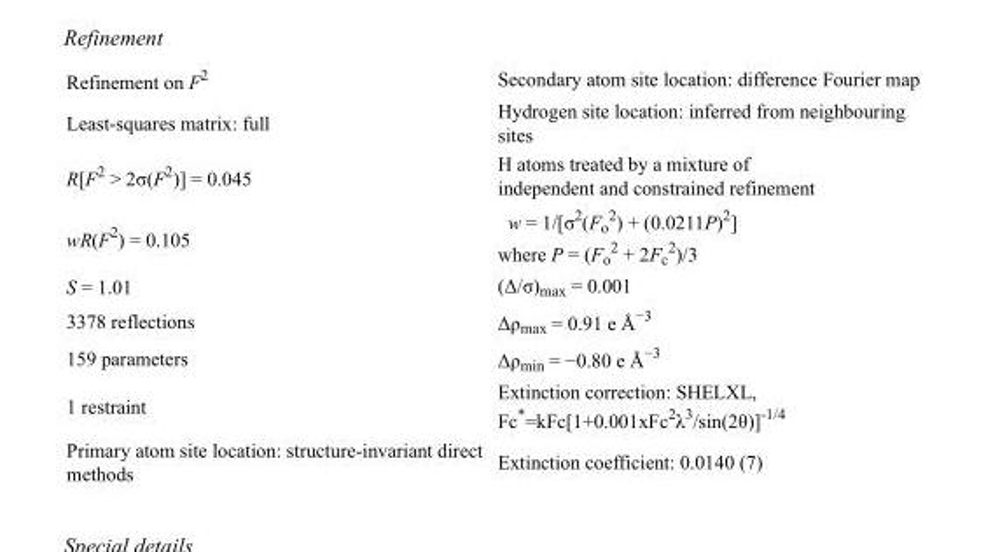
<table><tbody><tr><td>Refinement on F<sup>2</sup></td><td>Secondary atom site location: difference Fourier map</td></tr><tr><td>Least-squares matrix: full</td><td>Hydrogen site location: inferred from neighbouring sites</td></tr><tr><td>R[F<sup>2</sup> &gt; 2σ(F<sup>2</sup>)] = 0.045</td><td>H atoms treated by a mixture of independent and constrained refinement</td></tr><tr><td>wR(F<sup>2</sup>) = 0.105</td><td>w = 1/[σ<sup>2</sup>(F<sub>o</sub> <sup>2</sup>) + (0.0211P)<sup>2</sup>] where P = (F<sub>o</sub> <sup>2</sup> + 2F<sub>c</sub> <sup>2</sup>)/3</td></tr><tr><td>S = 1.01</td><td>(Δ/σ)<sub>max</sub> = 0.001</td></tr><tr><td>3378 reflections</td><td>Δρ<sub>max</sub> = 0.91 e Å<sup>−3</sup></td></tr><tr><td>159 parameters</td><td>Δρ<sub>min</sub> = −0.80 e Å<sup>−3</sup></td></tr><tr><td>1 restraint</td><td>Extinction correction: SHELXL, Fc*=kFc[1+0.001xFc<sup>2</sup>λ<sup>3</sup>/sin(2θ)]<sup>-1/4</sup></td></tr><tr><td>Primary atom site location: structure-invariant direct methods</td><td>Extinction coefficient: 0.0140 (7)</td></tr></tbody></table>